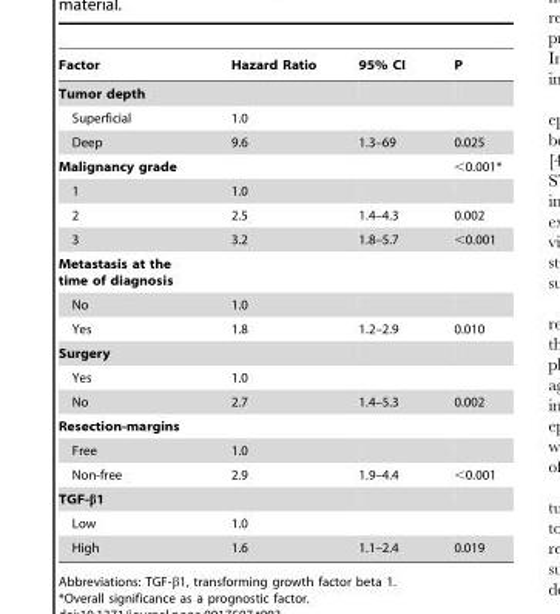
<table><thead><tr><td>Factor</td><td>Hazard Ratio</td><td>95% CI</td><td>P</td></tr></thead><tbody><tr><td colspan="4">Tumor depth</td></tr><tr><td>Superficial</td><td>1.0</td><td></td><td></td></tr><tr><td>Deep</td><td>9.6</td><td>1.3–69</td><td>0.025</td></tr><tr><td>Malignancy grade</td><td></td><td></td><td>&lt;0.001*</td></tr><tr><td>1</td><td>1.0</td><td></td><td></td></tr><tr><td>2</td><td>2.5</td><td>1.4–4.3</td><td>0.002</td></tr><tr><td>3</td><td>3.2</td><td>1.8–5.7</td><td>&lt;0.001</td></tr><tr><td colspan="4">Metastasis at the time of diagnosis</td></tr><tr><td>No</td><td>1.0</td><td></td><td></td></tr><tr><td>Yes</td><td>1.8</td><td>1.2–2.9</td><td>0.010</td></tr><tr><td colspan="4">Surgery</td></tr><tr><td>Yes</td><td>1.0</td><td></td><td></td></tr><tr><td>No</td><td>2.7</td><td>1.4–5.3</td><td>0.002</td></tr><tr><td colspan="4">Resection-margins</td></tr><tr><td>Free</td><td>1.0</td><td></td><td></td></tr><tr><td>Non-free</td><td>2.9</td><td>1.9–4.4</td><td>&lt;0.001</td></tr><tr><td colspan="4">TGF-β1</td></tr><tr><td>Low</td><td>1.0</td><td></td><td></td></tr><tr><td>High</td><td>1.6</td><td>1.1–2.4</td><td>0.019</td></tr></tbody></table>